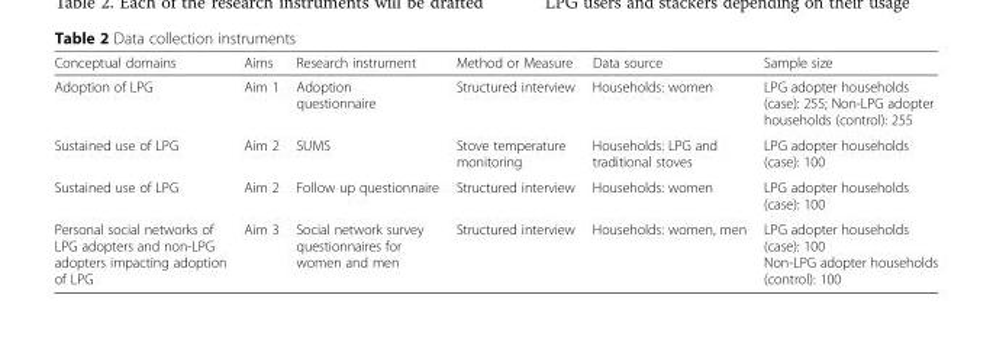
<table><thead><tr><td>Conceptual domains</td><td>Aims</td><td>Research instrument</td><td>Method or Measure</td><td>Data source</td><td>Sample size</td></tr></thead><tbody><tr><td>Adoption of LPG</td><td>Aim 1</td><td>Adoption questionnaire</td><td>Structured interview</td><td>Households: women</td><td>LPG adopter households (case): 255; Non-LPG adopter households (control): 255</td></tr><tr><td>Sustained use of LPG</td><td>Aim 2</td><td>SUMS</td><td>Stove temperature monitoring</td><td>Households: LPG and traditional stoves</td><td>LPG adopter households (case): 100</td></tr><tr><td>Sustained use of LPG</td><td>Aim 2</td><td>Follow up questionnaire</td><td>Structured interview</td><td>Households: women</td><td>LPG adopter households (case): 100</td></tr><tr><td>Personal social networks of LPG adopters and non-LPG adopters impacting adoption of LPG</td><td>Aim 3</td><td>Social network survey questionnaires for women and men</td><td>Structured interview</td><td>Households: women, men</td><td>LPG adopter households (case): 100 Non-LPG adopter households (control): 100</td></tr></tbody></table>